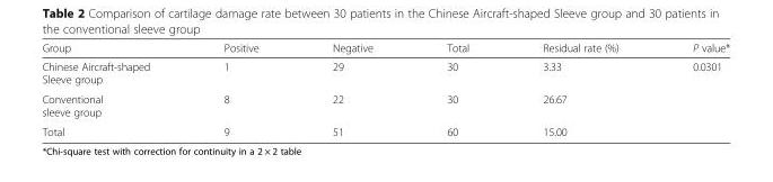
<table><thead><tr><td>Group</td><td>Positive</td><td>Negative</td><td>Total</td><td>Residual rate (%)</td><td>P value*</td></tr></thead><tbody><tr><td>Chinese Aircraft-shaped Sleeve group</td><td>1</td><td>29</td><td>30</td><td>3.33</td><td rowspan="3">0.0301</td></tr><tr><td>Conventional sleeve group</td><td>8</td><td>22</td><td>30</td><td>26.67</td></tr><tr><td>Total</td><td>9</td><td>51</td><td>60</td><td>15.00</td></tr></tbody></table>